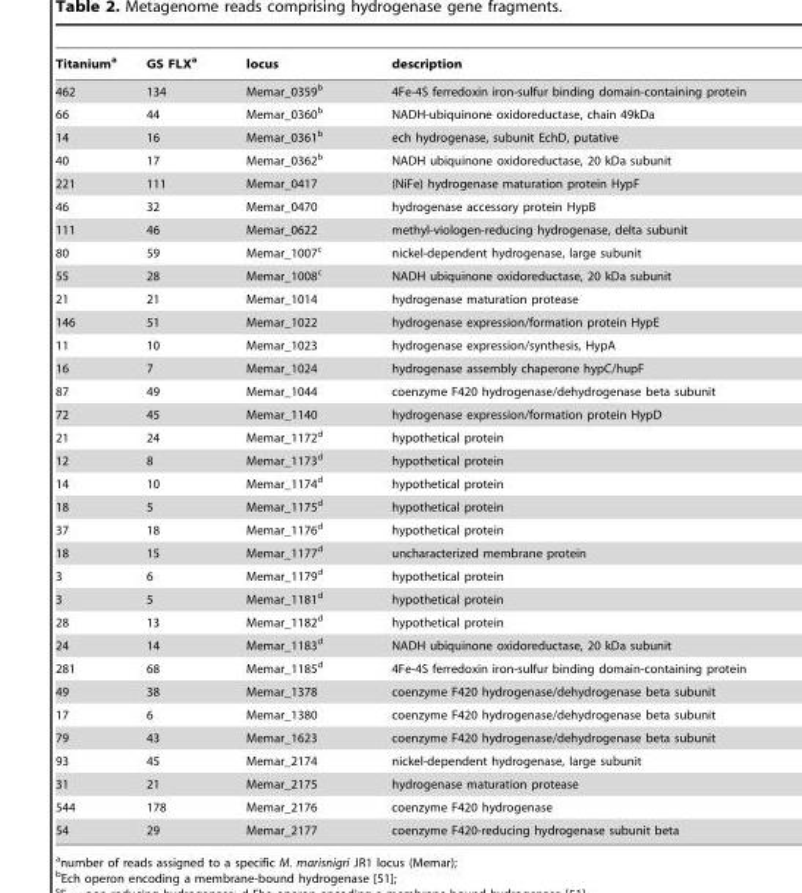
<table><thead><tr><td>Titanium<sup>a</sup></td><td>GS FLX<sup>a</sup></td><td>locus</td><td>description</td></tr></thead><tbody><tr><td>462</td><td>134</td><td>Memar_0359<sup>b</sup></td><td>4Fe-4S ferredoxin iron-sulfur binding domain-containing protein</td></tr><tr><td>66</td><td>44</td><td>Memar_0360<sup>b</sup></td><td>NADH-ubiquinone oxidoreductase, chain 49kDa</td></tr><tr><td>14</td><td>16</td><td>Memar_0361<sup>b</sup></td><td>ech hydrogenase, subunit EchD, putative</td></tr><tr><td>40</td><td>17</td><td>Memar_0362<sup>b</sup></td><td>NADH ubiquinone oxidoreductase, 20 kDa subunit</td></tr><tr><td>221</td><td>111</td><td>Memar_0417</td><td>(NiFe) hydrogenase maturation protein HypF</td></tr><tr><td>46</td><td>32</td><td>Memar_0470</td><td>hydrogenase accessory protein HypB</td></tr><tr><td>111</td><td>46</td><td>Memar_0622</td><td>methyl-viologen-reducing hydrogenase, delta subunit</td></tr><tr><td>80</td><td>59</td><td>Memar_1007<sup>c</sup></td><td>nickel-dependent hydrogenase, large subunit</td></tr><tr><td>55</td><td>28</td><td>Memar_1008<sup>c</sup></td><td>NADH ubiquinone oxidoreductase, 20 kDa subunit</td></tr><tr><td>21</td><td>21</td><td>Memar_1014</td><td>hydrogenase maturation protease</td></tr><tr><td>146</td><td>51</td><td>Memar_1022</td><td>hydrogenase expression/formation protein HypE</td></tr><tr><td>11</td><td>10</td><td>Memar_1023</td><td>hydrogenase expression/synthesis, HypA</td></tr><tr><td>16</td><td>7</td><td>Memar_1024</td><td>hydrogenase assembly chaperone hypC/hupF</td></tr><tr><td>87</td><td>49</td><td>Memar_1044</td><td>coenzyme F420 hydrogenase/dehydrogenase beta subunit</td></tr><tr><td>72</td><td>45</td><td>Memar_1140</td><td>hydrogenase expression/formation protein HypD</td></tr><tr><td>21</td><td>24</td><td>Memar_1172<sup>d</sup></td><td>hypothetical protein</td></tr><tr><td>12</td><td>8</td><td>Memar_1173<sup>d</sup></td><td>hypothetical protein</td></tr><tr><td>14</td><td>10</td><td>Memar_1174<sup>d</sup></td><td>hypothetical protein</td></tr><tr><td>18</td><td>5</td><td>Memar_1175<sup>d</sup></td><td>hypothetical protein</td></tr><tr><td>37</td><td>18</td><td>Memar_1176<sup>d</sup></td><td>hypothetical protein</td></tr><tr><td>18</td><td>15</td><td>Memar_1177<sup>d</sup></td><td>uncharacterized membrane protein</td></tr><tr><td>3</td><td>6</td><td>Memar_1179<sup>d</sup></td><td>hypothetical protein</td></tr><tr><td>3</td><td>5</td><td>Memar_1181<sup>d</sup></td><td>hypothetical protein</td></tr><tr><td>28</td><td>13</td><td>Memar_1182<sup>d</sup></td><td>hypothetical protein</td></tr><tr><td>24</td><td>14</td><td>Memar_1183<sup>d</sup></td><td>NADH ubiquinone oxidoreductase, 20 kDa subunit</td></tr><tr><td>281</td><td>68</td><td>Memar_1185<sup>d</sup></td><td>4Fe-4S ferredoxin iron-sulfur binding domain-containing protein</td></tr><tr><td>49</td><td>38</td><td>Memar_1378</td><td>coenzyme F420 hydrogenase/dehydrogenase beta subunit</td></tr><tr><td>17</td><td>6</td><td>Memar_1380</td><td>coenzyme F420 hydrogenase/dehydrogenase beta subunit</td></tr><tr><td>79</td><td>43</td><td>Memar_1623</td><td>coenzyme F420 hydrogenase/dehydrogenase beta subunit</td></tr><tr><td>93</td><td>45</td><td>Memar_2174</td><td>nickel-dependent hydrogenase, large subunit</td></tr><tr><td>31</td><td>21</td><td>Memar_2175</td><td>hydrogenase maturation protease</td></tr><tr><td>544</td><td>178</td><td>Memar_2176</td><td>coenzyme F420 hydrogenase</td></tr><tr><td>54</td><td>29</td><td>Memar_2177</td><td>coenzyme F420-reducing hydrogenase subunit beta</td></tr></tbody></table>